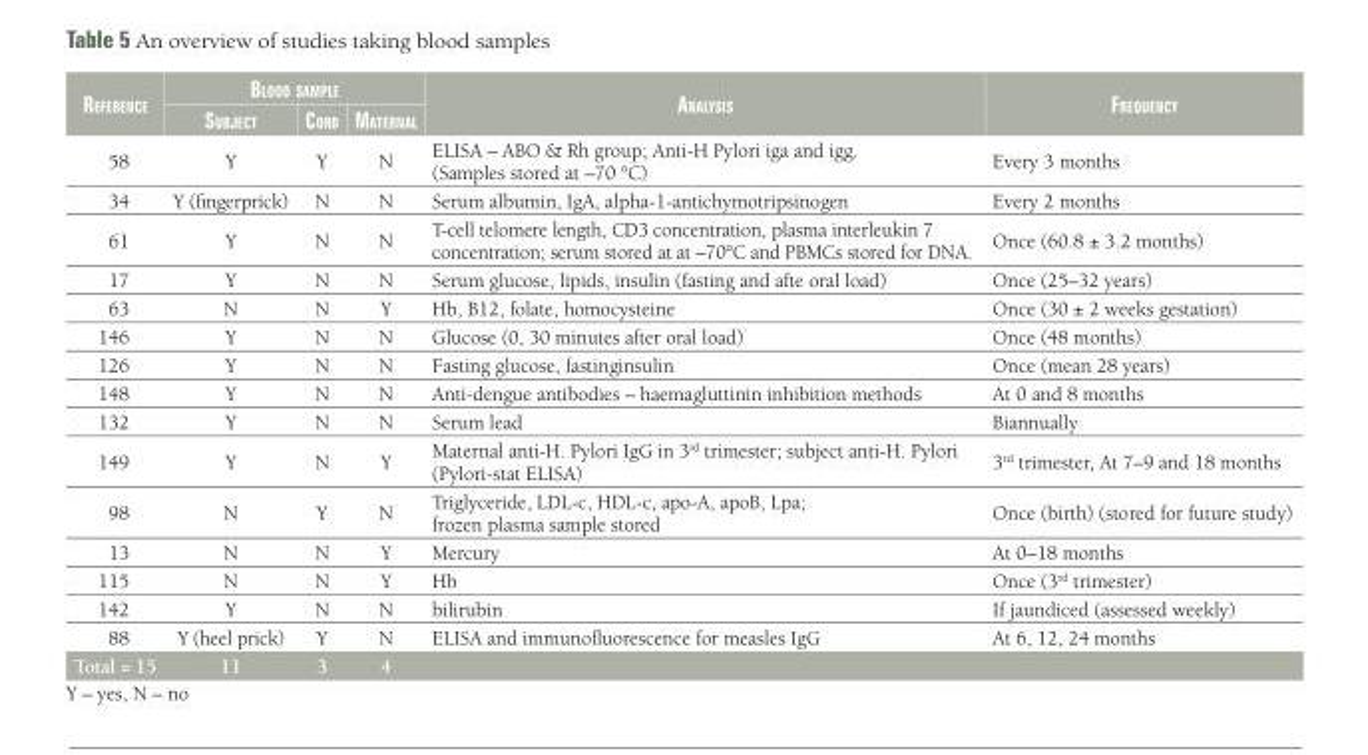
<table><thead><tr><td rowspan="2">referenCe</td><td colspan="3">bLood samPLe</td><td rowspan="2">anaLysis</td><td rowspan="2">frequenCy</td></tr><tr><td>subjeCt</td><td>Cord</td><td>maternaL</td></tr></thead><tbody><tr><td>58</td><td>Y</td><td>Y</td><td>N</td><td>ELISA – ABO &amp; Rh group; Anti-H Pylori iga and igg. (Samples stored at –70 °C)</td><td>Every 3 months</td></tr><tr><td>34</td><td>Y (fingerprick)</td><td>N</td><td>N</td><td>Serum albumin, IgA, alpha-1-antichymotripsinogen</td><td>Every 2 months</td></tr><tr><td>61</td><td>Y</td><td>N</td><td>N</td><td>T-cell telomere length, CD3 concentration, plasma interleukin 7 concentration; serum stored at at –70°C and PBMCs stored for DNA.</td><td>Once (60.8 ± 3.2 months)</td></tr><tr><td>17</td><td>Y</td><td>N</td><td>N</td><td>Serum glucose, lipids, insulin (fasting and afte oral load)</td><td>Once (25–32 years)</td></tr><tr><td>63</td><td>N</td><td>N</td><td>Y</td><td>Hb, B12, folate, homocysteine</td><td>Once (30 ± 2 weeks gestation)</td></tr><tr><td>146</td><td>Y</td><td>N</td><td>N</td><td>Glucose (0, 30 minutes after oral load)</td><td>Once (48 months)</td></tr><tr><td>126</td><td>Y</td><td>N</td><td>N</td><td>Fasting glucose, fastinginsulin</td><td>Once (mean 28 years)</td></tr><tr><td>148</td><td>Y</td><td>N</td><td>N</td><td>Anti-dengue antibodies – haemagluttinin inhibition methods</td><td>At 0 and 8 months</td></tr><tr><td>132</td><td>Y</td><td>N</td><td>N</td><td>Serum lead</td><td>Biannually</td></tr><tr><td>149</td><td>Y</td><td>N</td><td>Y</td><td>Maternal anti-H. Pylori IgG in 3rd trimester; subject anti-H. Pylori (Pylori-stat ELISA)</td><td>3rd trimester, At 7–9 and 18 months</td></tr><tr><td>98</td><td>N</td><td>Y</td><td>N</td><td>Triglyceride, LDL-c, HDL-c, apo-A, apoB, Lpa; frozen plasma sample stored</td><td>Once (birth) (stored for future study)</td></tr><tr><td>13</td><td>N</td><td>N</td><td>Y</td><td>Mercury</td><td>At 0–18 months</td></tr><tr><td>115</td><td>N</td><td>N</td><td>Y</td><td>Hb</td><td>Once (3rd trimester)</td></tr><tr><td>142</td><td>Y</td><td>N</td><td>N</td><td>bilirubin</td><td>If jaundiced (assessed weekly)</td></tr><tr><td>88</td><td>Y (heel prick)</td><td>Y</td><td>N</td><td>ELISA and immunofluorescence for measles IgG</td><td>At 6, 12, 24 months</td></tr><tr><td>Total = 15</td><td>11</td><td>3</td><td>4</td><td></td><td></td></tr></tbody></table>